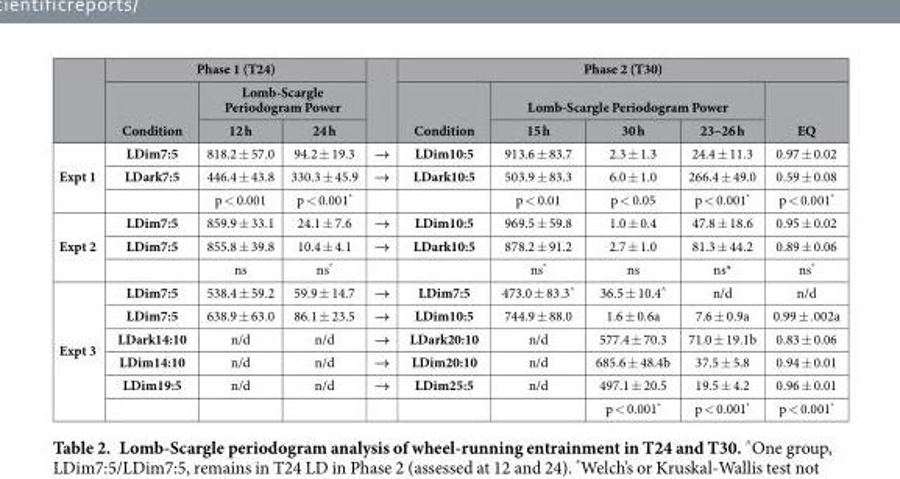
<table><thead><tr><td rowspan="3"></td><td colspan="3">Phase 1 (T24)</td><td rowspan="3"></td><td colspan="5">Phase 2 (T30)</td></tr><tr><td rowspan="2">Condition</td><td colspan="2">Lomb-Scargle Periodogram Power</td><td rowspan="2">Condition</td><td colspan="3">Lomb-Scargle Periodogram Power</td><td rowspan="2">EQ</td></tr><tr><td>12 h</td><td>24 h</td><td>15 h</td><td>30 h</td><td>23–26 h</td></tr></thead><tbody><tr><td rowspan="3">Expt 1</td><td>LDim7:5</td><td>818.2 ± 57.0</td><td>94.2 ± 19.3</td><td>→</td><td>LDim10:5</td><td>913.6 ± 83.7</td><td>2.3 ± 1.3</td><td>24.4 ± 11.3</td><td>0.97 ± 0.02</td></tr><tr><td>LDark7:5</td><td>446.4 ± 43.8</td><td>330.3 ± 45.9</td><td>→</td><td>LDark10:5</td><td>503.9 ± 83.3</td><td>6.0 ± 1.0</td><td>266.4 ± 49.0</td><td>0.59 ± 0.08</td></tr><tr><td></td><td>p &lt; 0.001</td><td>p &lt; 0.001*</td><td></td><td></td><td>p &lt; 0.01</td><td>p &lt; 0.05</td><td>p &lt; 0.001*</td><td>p &lt; 0.001*</td></tr><tr><td rowspan="3">Expt 2</td><td>LDim7:5</td><td>859.9 ± 33.1</td><td>24.1 ± 7.6</td><td>→</td><td>LDim10:5</td><td>969.5 ± 59.8</td><td>1.0 ± 0.4</td><td>47.8 ± 18.6</td><td>0.95 ± 0.02</td></tr><tr><td>LDim7:5</td><td>855.8 ± 39.8</td><td>10.4 ± 4.1</td><td>→</td><td>LDark10:5</td><td>878.2 ± 91.2</td><td>2.7 ± 1.0</td><td>81.3 ± 44.2</td><td>0.89 ± 0.06</td></tr><tr><td></td><td>ns</td><td>ns*</td><td></td><td></td><td>ns*</td><td>ns</td><td>ns*</td><td>ns*</td></tr><tr><td rowspan="6">Expt 3</td><td>LDim7:5</td><td>538.4 ± 59.2</td><td>59.9 ± 14.7</td><td>→</td><td>LDim7:5</td><td>473.0 ± 83.3^</td><td>36.5 ± 10.4^</td><td>n/d</td><td>n/d</td></tr><tr><td>LDim7:5</td><td>638.9 ± 63.0</td><td>86.1 ± 23.5</td><td>→</td><td>LDim10:5</td><td>744.9 ± 88.0</td><td>1.6 ± 0.6a</td><td>7.6 ± 0.9a</td><td>0.99 ± .002a</td></tr><tr><td>LDark14:10</td><td>n/d</td><td>n/d</td><td>→</td><td>LDark20:10</td><td>n/d</td><td>577.4 ± 70.3</td><td>71.0 ± 19.1b</td><td>0.83 ± 0.06</td></tr><tr><td>LDim14:10</td><td>n/d</td><td>n/d</td><td>→</td><td>LDim20:10</td><td>n/d</td><td>685.6 ± 48.4b</td><td>37.5 ± 5.8</td><td>0.94 ± 0.01</td></tr><tr><td>LDim19:5</td><td>n/d</td><td>n/d</td><td>→</td><td>LDim25:5</td><td>n/d</td><td>497.1 ± 20.5</td><td>19.5 ± 4.2</td><td>0.96 ± 0.01</td></tr><tr><td></td><td></td><td></td><td></td><td></td><td></td><td>p &lt; 0.001*</td><td>p &lt; 0.001*</td><td>p &lt; 0.001*</td></tr></tbody></table>